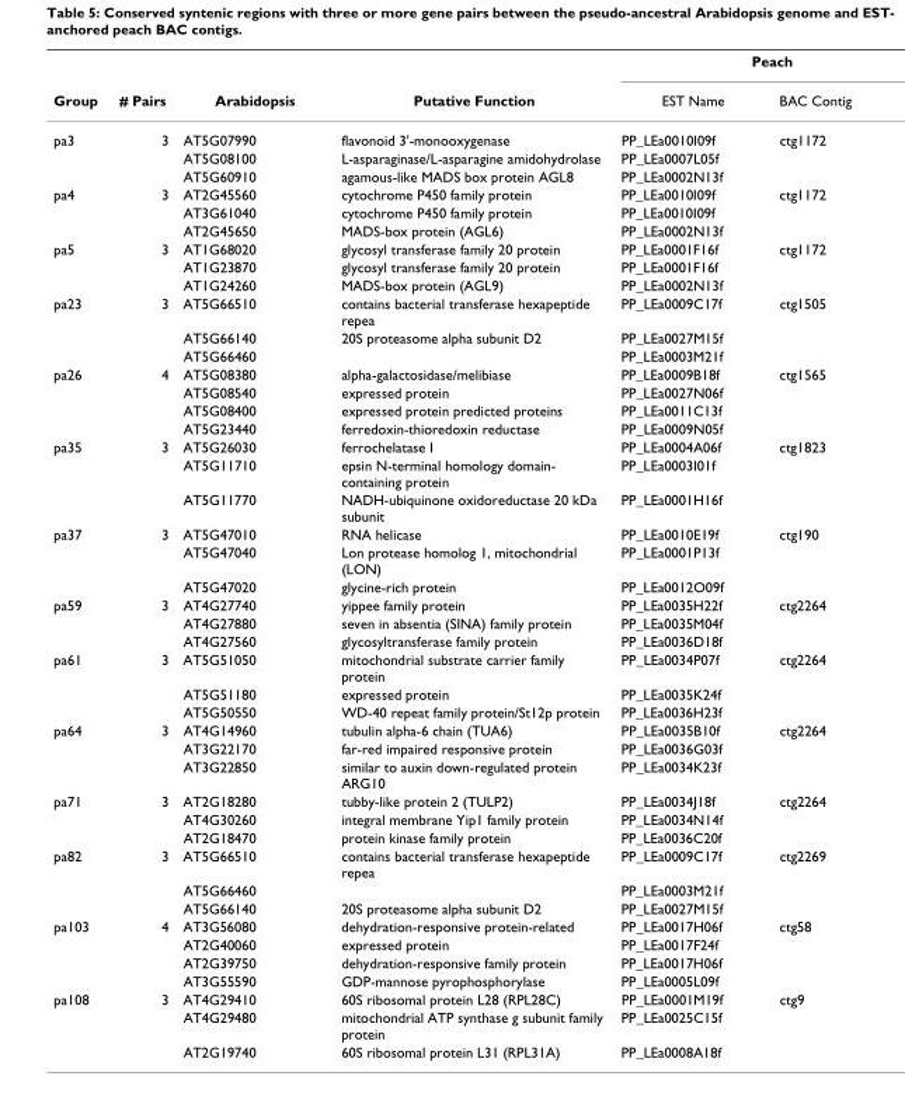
<table><thead><tr><td rowspan="2">Group</td><td rowspan="2"># Pairs</td><td rowspan="2">Arabidopsis</td><td rowspan="2">Putative Function</td><td colspan="2">Peach</td></tr><tr><td>EST Name</td><td>BAC Contig</td></tr></thead><tbody><tr><td rowspan="3">pa3</td><td>3</td><td>AT5G07990</td><td>flavonoid 3&#x27;-monooxygenase</td><td>PP_LEa0010I09f</td><td>ctg1172</td></tr><tr><td></td><td>AT5G08100</td><td>L-asparaginase/L-asparagine amidohydrolase</td><td>PP_LEa0007L05f</td><td></td></tr><tr><td></td><td>AT5G60910</td><td>agamous-like MADS box protein AGL8</td><td>PP_LEa0002N13f</td><td></td></tr><tr><td rowspan="3">pa4</td><td>3</td><td>AT2G45560</td><td>cytochrome P450 family protein</td><td>PP_LEa0010I09f</td><td>ctg1172</td></tr><tr><td></td><td>AT3G61040</td><td>cytochrome P450 family protein</td><td>PP_LEa0010I09f</td><td></td></tr><tr><td></td><td>AT2G45650</td><td>MADS-box protein (AGL6)</td><td>PP_LEa0002N13f</td><td></td></tr><tr><td rowspan="3">pa5</td><td>3</td><td>AT1G68020</td><td>glycosyl transferase family 20 protein</td><td>PP_LEa0001F16f</td><td>ctg1172</td></tr><tr><td></td><td>AT1G23870</td><td>glycosyl transferase family 20 protein</td><td>PP_LEa0001F16f</td><td></td></tr><tr><td></td><td>AT1G24260</td><td>MADS-box protein (AGL9)</td><td>PP_LEa0002N13f</td><td></td></tr><tr><td rowspan="3">pa23</td><td>3</td><td>AT5G66510</td><td>contains bacterial transferase hexapeptide repea</td><td>PP_LEa0009C17f</td><td>ctg1505</td></tr><tr><td></td><td>AT5G66140</td><td>20S proteasome alpha subunit D2</td><td>PP_LEa0027M15f</td><td></td></tr><tr><td></td><td>AT5G66460</td><td></td><td>PP_LEa0003M21f</td><td></td></tr><tr><td rowspan="4">pa26</td><td>4</td><td>AT5G08380</td><td>alpha-galactosidase/melibiase</td><td>PP_LEa0009B18f</td><td>ctg1565</td></tr><tr><td></td><td>AT5G08540</td><td>expressed protein</td><td>PP_LEa0027N06f</td><td></td></tr><tr><td></td><td>AT5G08400</td><td>expressed protein predicted proteins</td><td>PP_LEa0011C13f</td><td></td></tr><tr><td></td><td>AT5G23440</td><td>ferredoxin-thioredoxin reductase</td><td>PP_LEa0009N05f</td><td></td></tr><tr><td rowspan="3">pa35</td><td>3</td><td>AT5G26030</td><td>ferrochelatase I</td><td>PP_LEa0004A06f</td><td>ctg1823</td></tr><tr><td></td><td>AT5G11710</td><td>epsin N-terminal homology domain- containing protein</td><td>PP_LEa0003I01f</td><td></td></tr><tr><td></td><td>AT5G11770</td><td>NADH-ubiquinone oxidoreductase 20 kDa subunit</td><td>PP_LEa0001H16f</td><td></td></tr><tr><td rowspan="3">pa37</td><td>3</td><td>AT5G47010</td><td>RNA helicase</td><td>PP_LEa0010E19f</td><td>ctg190</td></tr><tr><td></td><td>AT5G47040</td><td>Lon protease homolog 1, mitochondrial (LON)</td><td>PP_LEa0001P13f</td><td></td></tr><tr><td></td><td>AT5G47020</td><td>glycine-rich protein</td><td>PP_LEa0012O09f</td><td></td></tr><tr><td rowspan="3">pa59</td><td>3</td><td>AT4G27740</td><td>yippee family protein</td><td>PP_LEa0035H22f</td><td>ctg2264</td></tr><tr><td></td><td>AT4G27880</td><td>seven in absentia (SINA) family protein</td><td>PP_LEa0035M04f</td><td></td></tr><tr><td></td><td>AT4G27560</td><td>glycosyltransferase family protein</td><td>PP_LEa0036D18f</td><td></td></tr><tr><td rowspan="3">pa61</td><td>3</td><td>AT5G51050</td><td>mitochondrial substrate carrier family protein</td><td>PP_LEa0034P07f</td><td>ctg2264</td></tr><tr><td></td><td>AT5G51180</td><td>expressed protein</td><td>PP_LEa0035K24f</td><td></td></tr><tr><td></td><td>AT5G50550</td><td>WD-40 repeat family protein/St12p protein</td><td>PP_LEa0036H23f</td><td></td></tr><tr><td rowspan="3">pa64</td><td>3</td><td>AT4G14960</td><td>tubulin alpha-6 chain (TUA6)</td><td>PP_LEa0035B10f</td><td>ctg2264</td></tr><tr><td></td><td>AT3G22170</td><td>far-red impaired responsive protein</td><td>PP_LEa0036G03f</td><td></td></tr><tr><td></td><td>AT3G22850</td><td>similar to auxin down-regulated protein ARG10</td><td>PP_LEa0034K23f</td><td></td></tr><tr><td rowspan="3">pa71</td><td>3</td><td>AT2G18280</td><td>tubby-like protein 2 (TULP2)</td><td>PP_LEa0034J18f</td><td>ctg2264</td></tr><tr><td></td><td>AT4G30260</td><td>integral membrane Yip1 family protein</td><td>PP_LEa0034N14f</td><td></td></tr><tr><td></td><td>AT2G18470</td><td>protein kinase family protein</td><td>PP_LEa0036C20f</td><td></td></tr><tr><td rowspan="3">pa82</td><td>3</td><td>AT5G66510</td><td>contains bacterial transferase hexapeptide repea</td><td>PP_LEa0009C17f</td><td>ctg2269</td></tr><tr><td></td><td>AT5G66460</td><td></td><td>PP_LEa0003M21f</td><td></td></tr><tr><td></td><td>AT5G66140</td><td>20S proteasome alpha subunit D2</td><td>PP_LEa0027M15f</td><td></td></tr><tr><td rowspan="4">pa103</td><td>4</td><td>AT3G56080</td><td>dehydration-responsive protein-related</td><td>PP_LEa0017H06f</td><td>ctg58</td></tr><tr><td></td><td>AT2G40060</td><td>expressed protein</td><td>PP_LEa0017F24f</td><td></td></tr><tr><td></td><td>AT2G39750</td><td>dehydration-responsive family protein</td><td>PP_LEa0017H06f</td><td></td></tr><tr><td></td><td>AT3G55590</td><td>GDP-mannose pyrophosphorylase</td><td>PP_LEa0005L09f</td><td></td></tr><tr><td rowspan="3">pa108</td><td>3</td><td>AT4G29410</td><td>60S ribosomal protein L28 (RPL28C)</td><td>PP_LEa0001M19f</td><td>ctg9</td></tr><tr><td></td><td>AT4G29480</td><td>mitochondrial ATP synthase g subunit family protein</td><td>PP_LEa0025C15f</td><td></td></tr><tr><td></td><td>AT2G19740</td><td>60S ribosomal protein L31 (RPL31A)</td><td>PP_LEa0008A18f</td><td></td></tr></tbody></table>